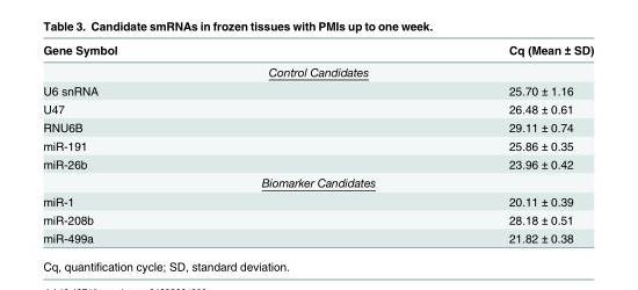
<table><thead><tr><td>Gene Symbol</td><td>Cq (Mean ± SD)</td></tr></thead><tbody><tr><td colspan="2">Control Candidates</td></tr><tr><td>U6 snRNA</td><td>25.70 ± 1.16</td></tr><tr><td>U47</td><td>26.48 ± 0.61</td></tr><tr><td>RNU6B</td><td>29.11 ± 0.74</td></tr><tr><td>miR-191</td><td>25.86 ± 0.35</td></tr><tr><td>miR-26b</td><td>23.96 ± 0.42</td></tr><tr><td colspan="2">Biomarker Candidates</td></tr><tr><td>miR-1</td><td>20.11 ± 0.39</td></tr><tr><td>miR-208b</td><td>28.18 ± 0.51</td></tr><tr><td>miR-499a</td><td>21.82 ± 0.38</td></tr></tbody></table>